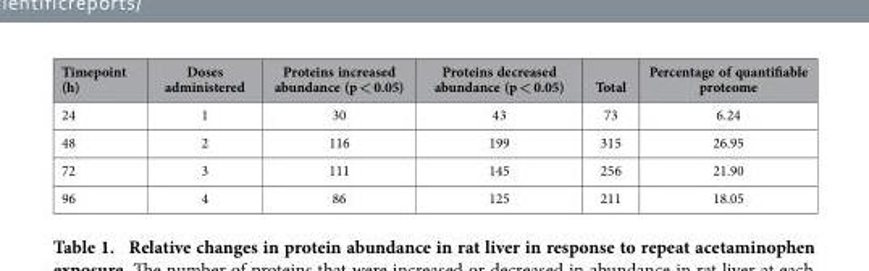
<table><thead><tr><td>Timepoint (h)</td><td>Doses administered</td><td>Proteins increased abundance (p &lt; 0.05)</td><td>Proteins decreased abundance (p &lt; 0.05)</td><td>Total</td><td>Percentage of quantifiable proteome</td></tr></thead><tbody><tr><td>24</td><td>1</td><td>30</td><td>43</td><td>73</td><td>6.24</td></tr><tr><td>48</td><td>2</td><td>116</td><td>199</td><td>315</td><td>26.95</td></tr><tr><td>72</td><td>3</td><td>111</td><td>145</td><td>256</td><td>21.90</td></tr><tr><td>96</td><td>4</td><td>86</td><td>125</td><td>211</td><td>18.05</td></tr></tbody></table>